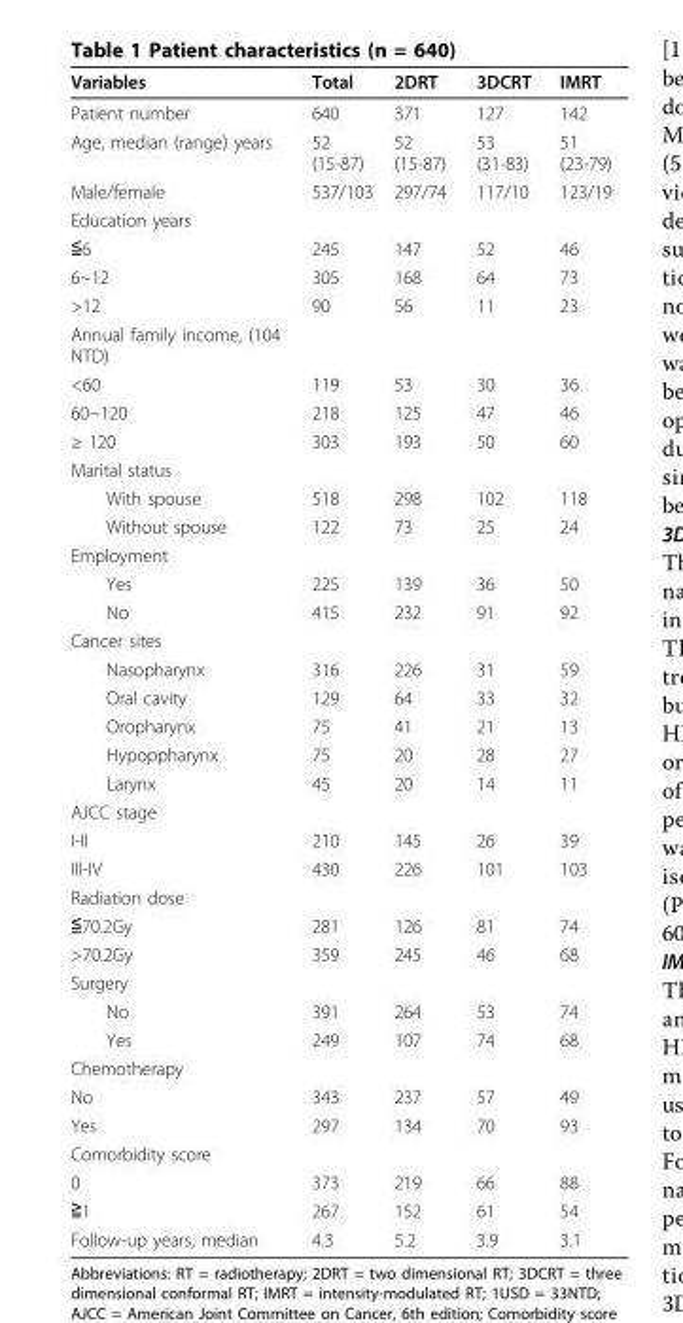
<table><thead><tr><td>Variables</td><td>Total</td><td>2DRT</td><td>3DCRT</td><td>IMRT</td></tr></thead><tbody><tr><td>Patient number</td><td>640</td><td>371</td><td>127</td><td>142</td></tr><tr><td>Age, median (range) years</td><td>52 (15-87)</td><td>52 (15-87)</td><td>53 (31-83)</td><td>51 (23-79)</td></tr><tr><td>Male/female</td><td>537/103</td><td>297/74</td><td>117/10</td><td>123/19</td></tr><tr><td colspan="5">Education years</td></tr><tr><td>≦6</td><td>245</td><td>147</td><td>52</td><td>46</td></tr><tr><td>6~12</td><td>305</td><td>168</td><td>64</td><td>73</td></tr><tr><td>&gt;12</td><td>90</td><td>56</td><td>11</td><td>23</td></tr><tr><td colspan="5">Annual family income, (104 NTD)</td></tr><tr><td>&lt;60</td><td>119</td><td>53</td><td>30</td><td>36</td></tr><tr><td>60~120</td><td>218</td><td>125</td><td>47</td><td>46</td></tr><tr><td>≥ 120</td><td>303</td><td>193</td><td>50</td><td>60</td></tr><tr><td colspan="5">Marital status</td></tr><tr><td>With spouse</td><td>518</td><td>298</td><td>102</td><td>118</td></tr><tr><td>Without spouse</td><td>122</td><td>73</td><td>25</td><td>24</td></tr><tr><td colspan="5">Employment</td></tr><tr><td>Yes</td><td>225</td><td>139</td><td>36</td><td>50</td></tr><tr><td>No</td><td>415</td><td>232</td><td>91</td><td>92</td></tr><tr><td colspan="5">Cancer sites</td></tr><tr><td>Nasopharynx</td><td>316</td><td>226</td><td>31</td><td>59</td></tr><tr><td>Oral cavity</td><td>129</td><td>64</td><td>33</td><td>32</td></tr><tr><td>Oropharynx</td><td>75</td><td>41</td><td>21</td><td>13</td></tr><tr><td>Hypoppharynx</td><td>75</td><td>20</td><td>28</td><td>27</td></tr><tr><td>Larynx</td><td>45</td><td>20</td><td>14</td><td>11</td></tr><tr><td colspan="5">AJCC stage</td></tr><tr><td>I-II</td><td>210</td><td>145</td><td>26</td><td>39</td></tr><tr><td>III-IV</td><td>430</td><td>226</td><td>101</td><td>103</td></tr><tr><td colspan="5">Radiation dose</td></tr><tr><td>≦70.2Gy</td><td>281</td><td>126</td><td>81</td><td>74</td></tr><tr><td>&gt;70.2Gy</td><td>359</td><td>245</td><td>46</td><td>68</td></tr><tr><td colspan="5">Surgery</td></tr><tr><td>No</td><td>391</td><td>264</td><td>53</td><td>74</td></tr><tr><td>Yes</td><td>249</td><td>107</td><td>74</td><td>68</td></tr><tr><td colspan="5">Chemotherapy</td></tr><tr><td>No</td><td>343</td><td>237</td><td>57</td><td>49</td></tr><tr><td>Yes</td><td>297</td><td>134</td><td>70</td><td>93</td></tr><tr><td colspan="5">Comorbidity score</td></tr><tr><td>0</td><td>373</td><td>219</td><td>66</td><td>88</td></tr><tr><td>≧1</td><td>267</td><td>152</td><td>61</td><td>54</td></tr><tr><td>Follow-up years, median</td><td>4.3</td><td>5.2</td><td>3.9</td><td>3.1</td></tr></tbody></table>